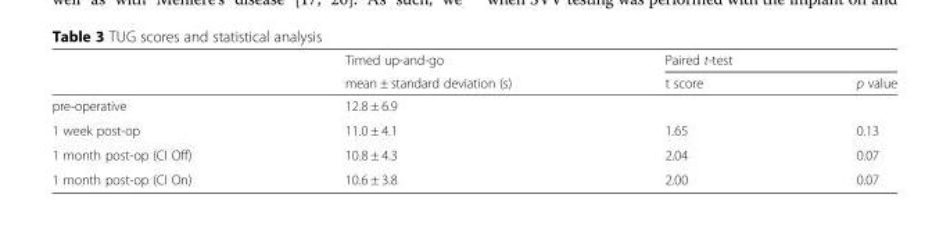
<table><thead><tr><td rowspan="2"></td><td rowspan="2">Timed up-and-go mean ± standard deviation (s)</td><td colspan="2">Paired t-test</td></tr><tr><td>t score</td><td>p value</td></tr></thead><tbody><tr><td>pre-operative</td><td>12.8 ± 6.9</td><td></td><td></td></tr><tr><td>1 week post-op</td><td>11.0 ± 4.1</td><td>1.65</td><td>0.13</td></tr><tr><td>1 month post-op (CI Off)</td><td>10.8 ± 4.3</td><td>2.04</td><td>0.07</td></tr><tr><td>1 month post-op (CI On)</td><td>10.6 ± 3.8</td><td>2.00</td><td>0.07</td></tr></tbody></table>